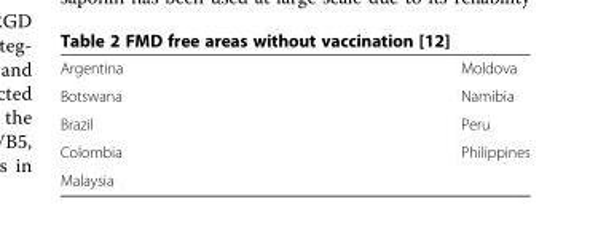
<table><tbody><tr><td>Argentina</td><td>Moldova</td></tr><tr><td>Botswana</td><td>Namibia</td></tr><tr><td>Brazil</td><td>Peru</td></tr><tr><td>Colombia</td><td>Philippines</td></tr><tr><td>Malaysia</td><td></td></tr></tbody></table>